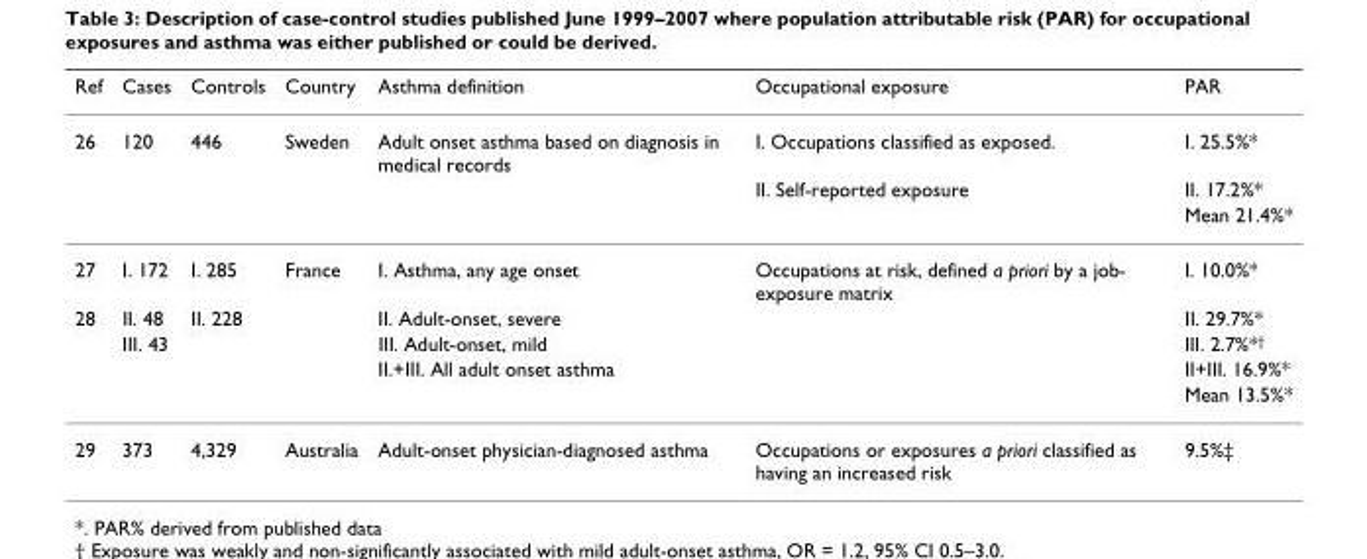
<table><thead><tr><td>Ref</td><td>Cases</td><td>Controls</td><td>Country</td><td>Asthma definition</td><td>Occupational exposure</td><td>PAR</td></tr></thead><tbody><tr><td rowspan="3">26</td><td>120</td><td>446</td><td>Sweden</td><td>Adult onset asthma based on diagnosis in medical records</td><td>I. Occupations classified as exposed.</td><td>I. 25.5%*</td></tr><tr><td></td><td></td><td></td><td></td><td>II. Self-reported exposure</td><td>II. 17.2%*</td></tr><tr><td></td><td></td><td></td><td></td><td></td><td>Mean 21.4%*</td></tr><tr><td>27</td><td>I. 172</td><td>I. 285</td><td>France</td><td>I. Asthma, any age onset</td><td>Occupations at risk, defined a priori by a job- exposure matrix</td><td>I. 10.0%*</td></tr><tr><td rowspan="4">28</td><td>II. 48</td><td>II. 228</td><td></td><td>II. Adult-onset, severe</td><td></td><td>II. 29.7%*</td></tr><tr><td>III. 43</td><td></td><td></td><td>III. Adult-onset, mild</td><td></td><td>III. 2.7%*<sup>†</sup></td></tr><tr><td></td><td></td><td></td><td>II.+III. All adult onset asthma</td><td></td><td>II+III. 16.9%*</td></tr><tr><td></td><td></td><td></td><td></td><td></td><td>Mean 13.5%*</td></tr><tr><td>29</td><td>373</td><td>4,329</td><td>Australia</td><td>Adult-onset physician-diagnosed asthma</td><td>Occupations or exposures a priori classified as having an increased risk</td><td>9.5%‡</td></tr></tbody></table>